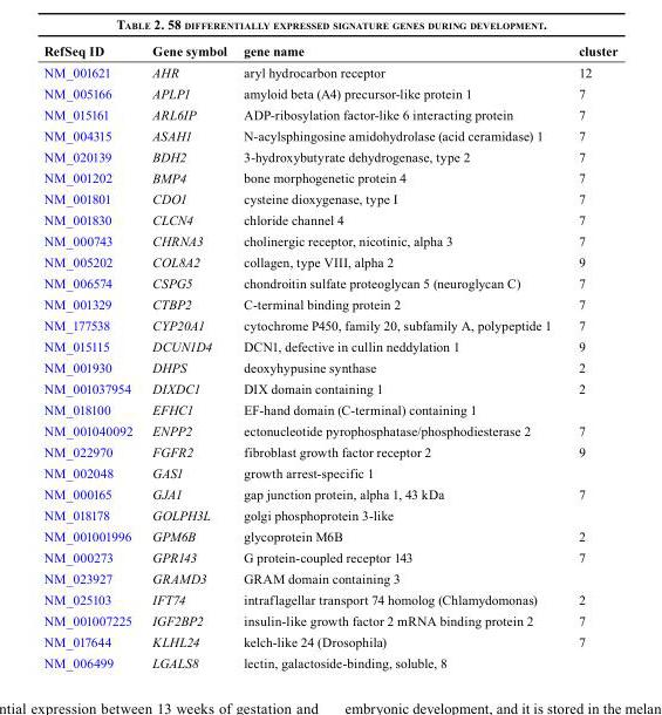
<table><thead><tr><td>RefSeq ID</td><td>Gene symbol</td><td>gene name</td><td>cluster</td></tr></thead><tbody><tr><td>NM_001621</td><td>AHR</td><td>aryl hydrocarbon receptor</td><td>12</td></tr><tr><td>NM_005166</td><td>APLP1</td><td>amyloid beta (A4) precursor-like protein 1</td><td>7</td></tr><tr><td>NM_015161</td><td>ARL6IP</td><td>ADP-ribosylation factor-like 6 interacting protein</td><td>7</td></tr><tr><td>NM_004315</td><td>ASAH1</td><td>N-acylsphingosine amidohydrolase (acid ceramidase) 1</td><td>7</td></tr><tr><td>NM_020139</td><td>BDH2</td><td>3-hydroxybutyrate dehydrogenase, type 2</td><td>7</td></tr><tr><td>NM_001202</td><td>BMP4</td><td>bone morphogenetic protein 4</td><td>7</td></tr><tr><td>NM_001801</td><td>CDO1</td><td>cysteine dioxygenase, type I</td><td>7</td></tr><tr><td>NM_001830</td><td>CLCN4</td><td>chloride channel 4</td><td>7</td></tr><tr><td>NM_000743</td><td>CHRNA3</td><td>cholinergic receptor, nicotinic, alpha 3</td><td>7</td></tr><tr><td>NM_005202</td><td>COL8A2</td><td>collagen, type VIII, alpha 2</td><td>9</td></tr><tr><td>NM_006574</td><td>CSPG5</td><td>chondroitin sulfate proteoglycan 5 (neuroglycan C)</td><td>7</td></tr><tr><td>NM_001329</td><td>CTBP2</td><td>C-terminal binding protein 2</td><td>7</td></tr><tr><td>NM_177538</td><td>CYP20A1</td><td>cytochrome P450, family 20, subfamily A, polypeptide 1</td><td>7</td></tr><tr><td>NM_015115</td><td>DCUN1D4</td><td>DCN1, defective in cullin neddylation 1</td><td>9</td></tr><tr><td>NM_001930</td><td>DHPS</td><td>deoxyhypusine synthase</td><td>2</td></tr><tr><td>NM_001037954</td><td>DIXDC1</td><td>DIX domain containing 1</td><td>2</td></tr><tr><td>NM_018100</td><td>EFHC1</td><td>EF-hand domain (C-terminal) containing 1</td><td></td></tr><tr><td>NM_001040092</td><td>ENPP2</td><td>ectonucleotide pyrophosphatase/phosphodiesterase 2</td><td>7</td></tr><tr><td>NM_022970</td><td>FGFR2</td><td>fibroblast growth factor receptor 2</td><td>9</td></tr><tr><td>NM_002048</td><td>GAS1</td><td>growth arrest-specific 1</td><td></td></tr><tr><td>NM_000165</td><td>GJA1</td><td>gap junction protein, alpha 1, 43 kDa</td><td>7</td></tr><tr><td>NM_018178</td><td>GOLPH3L</td><td>golgi phosphoprotein 3-like</td><td></td></tr><tr><td>NM_001001996</td><td>GPM6B</td><td>glycoprotein M6B</td><td>2</td></tr><tr><td>NM_000273</td><td>GPR143</td><td>G protein-coupled receptor 143</td><td>7</td></tr><tr><td>NM_023927</td><td>GRAMD3</td><td>GRAM domain containing 3</td><td></td></tr><tr><td>NM_025103</td><td>IFT74</td><td>intraflagellar transport 74 homolog (Chlamydomonas)</td><td>2</td></tr><tr><td>NM_001007225</td><td>IGF2BP2</td><td>insulin-like growth factor 2 mRNA binding protein 2</td><td>7</td></tr><tr><td>NM_017644</td><td>KLHL24</td><td>kelch-like 24 (Drosophila)</td><td>7</td></tr><tr><td>NM_006499</td><td>LGALS8</td><td>lectin, galactoside-binding, soluble, 8</td><td></td></tr></tbody></table>